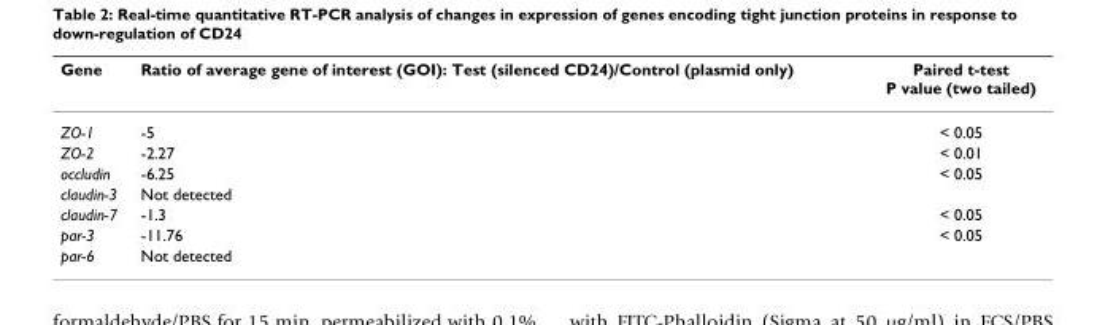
<table><thead><tr><td>Gene</td><td>Ratio of average gene of interest (GOI): Test (silenced CD24)/Control (plasmid only)</td><td>Paired t-test P value (two tailed)</td></tr></thead><tbody><tr><td>ZO-1</td><td>-5</td><td>&lt; 0.05</td></tr><tr><td>ZO-2</td><td>-2.27</td><td>&lt; 0.01</td></tr><tr><td>occludin</td><td>-6.25</td><td>&lt; 0.05</td></tr><tr><td>claudin-3</td><td>Not detected</td><td></td></tr><tr><td>claudin-7</td><td>-1.3</td><td>&lt; 0.05</td></tr><tr><td>par-3</td><td>-11.76</td><td>&lt; 0.05</td></tr><tr><td>par-6</td><td>Not detected</td><td></td></tr></tbody></table>